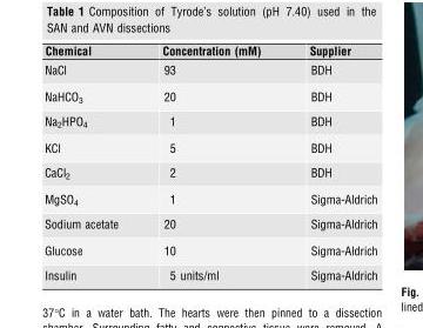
<table><thead><tr><td>Chemical</td><td>Concentration (mM)</td><td>Supplier</td></tr></thead><tbody><tr><td>NaCl</td><td>93</td><td>BDH</td></tr><tr><td>NaHCO<sub>3</sub></td><td>20</td><td>BDH</td></tr><tr><td>Na<sub>2</sub>HPO<sub>4</sub></td><td>1</td><td>BDH</td></tr><tr><td>KCl</td><td>5</td><td>BDH</td></tr><tr><td>CaCl<sub>2</sub></td><td>2</td><td>BDH</td></tr><tr><td>MgSO<sub>4</sub></td><td>1</td><td>Sigma-Aldrich</td></tr><tr><td>Sodium acetate</td><td>20</td><td>Sigma-Aldrich</td></tr><tr><td>Glucose</td><td>10</td><td>Sigma-Aldrich</td></tr><tr><td>Insulin</td><td>5 units/ml</td><td>Sigma-Aldrich</td></tr></tbody></table>